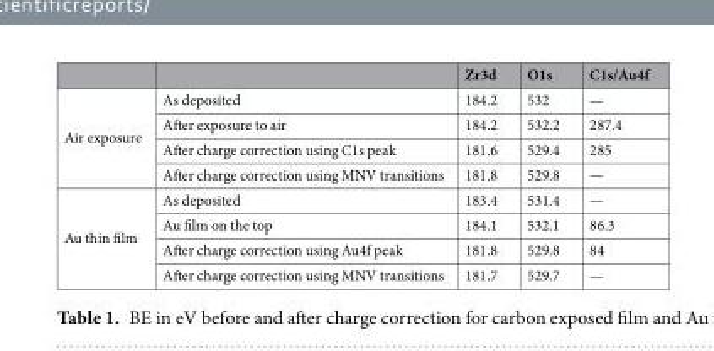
<table><thead><tr><td></td><td></td><td>Zr3d</td><td>O1s</td><td>C1s/Au4f</td></tr></thead><tbody><tr><td rowspan="4">Air exposure</td><td>As deposited</td><td>184.2</td><td>532</td><td>—</td></tr><tr><td>After exposure to air</td><td>184.2</td><td>532.2</td><td>287.4</td></tr><tr><td>After charge correction using C1s peak</td><td>181.6</td><td>529.4</td><td>285</td></tr><tr><td>After charge correction using MNV transitions</td><td>181.8</td><td>529.8</td><td>—</td></tr><tr><td rowspan="4">Au thin film</td><td>As deposited</td><td>183.4</td><td>531.4</td><td>—</td></tr><tr><td>Au film on the top</td><td>184.1</td><td>532.1</td><td>86.3</td></tr><tr><td>After charge correction using Au4f peak</td><td>181.8</td><td>529.8</td><td>84</td></tr><tr><td>After charge correction using MNV transitions</td><td>181.7</td><td>529.7</td><td>—</td></tr></tbody></table>